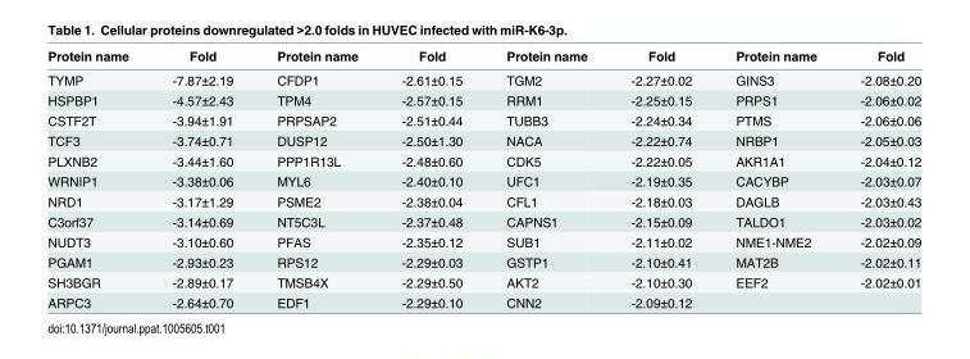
<table><thead><tr><td>Protein name</td><td>Fold</td><td>Protein name</td><td>Fold</td><td>Protein name</td><td>Fold</td><td>Protein name</td><td>Fold</td></tr></thead><tbody><tr><td>TYMP</td><td>-7.87±2.19</td><td>CFDP1</td><td>-2.61±0.15</td><td>TGM2</td><td>-2.27±0.02</td><td>GINS3</td><td>-2.08±0.20</td></tr><tr><td>HSPBP1</td><td>-4.57±2.43</td><td>TPM4</td><td>-2.57±0.15</td><td>RRM1</td><td>-2.25±0.15</td><td>PRPS1</td><td>-2.06±0.02</td></tr><tr><td>CSTF2T</td><td>-3.94±1.91</td><td>PRPSAP2</td><td>-2.51±0.44</td><td>TUBB3</td><td>-2.24±0.34</td><td>PTMS</td><td>-2.06±0.06</td></tr><tr><td>TCF3</td><td>-3.74±0.71</td><td>DUSP12</td><td>-2.50±1.30</td><td>NACA</td><td>-2.22±0.74</td><td>NRBP1</td><td>-2.05±0.03</td></tr><tr><td>PLXNB2</td><td>-3.44±1.60</td><td>PPP1R13L</td><td>-2.48±0.60</td><td>CDK5</td><td>-2.22±0.05</td><td>AKR1A1</td><td>-2.04±0.12</td></tr><tr><td>WRNIP1</td><td>-3.38±0.06</td><td>MYL6</td><td>-2.40±0.10</td><td>UFC1</td><td>-2.19±0.35</td><td>CACYBP</td><td>-2.03±0.07</td></tr><tr><td>NRD1</td><td>-3.17±1.29</td><td>PSME2</td><td>-2.38±0.04</td><td>CFL1</td><td>-2.18±0.03</td><td>DAGLB</td><td>-2.03±0.43</td></tr><tr><td>C3orf37</td><td>-3.14±0.69</td><td>NT5C3L</td><td>-2.37±0.48</td><td>CAPNS1</td><td>-2.15±0.09</td><td>TALDO1</td><td>-2.03±0.02</td></tr><tr><td>NUDT3</td><td>-3.10±0.60</td><td>PFAS</td><td>-2.35±0.12</td><td>SUB1</td><td>-2.11±0.02</td><td>NME1-NME2</td><td>-2.02±0.09</td></tr><tr><td>PGAM1</td><td>-2.93±0.23</td><td>RPS12</td><td>-2.29±0.03</td><td>GSTP1</td><td>-2.10±0.41</td><td>MAT2B</td><td>-2.02±0.11</td></tr><tr><td>SH3BGR</td><td>-2.89±0.17</td><td>TMSB4X</td><td>-2.29±0.50</td><td>AKT2</td><td>-2.10±0.30</td><td>EEF2</td><td>-2.02±0.01</td></tr><tr><td>ARPC3</td><td>-2.64±0.70</td><td>EDF1</td><td>-2.29±0.10</td><td>CNN2</td><td>-2.09±0.12</td><td></td><td></td></tr></tbody></table>